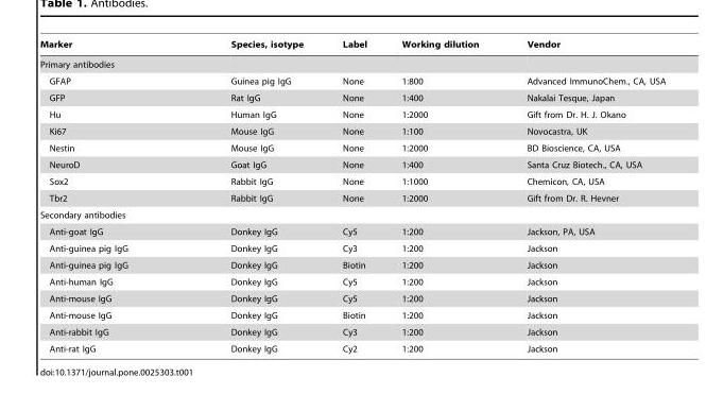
<table><thead><tr><td>Marker</td><td>Species, isotype</td><td>Label</td><td>Working dilution</td><td>Vendor</td></tr></thead><tbody><tr><td colspan="5">Primary antibodies</td></tr><tr><td>GFAP</td><td>Guinea pig IgG</td><td>None</td><td>1:800</td><td>Advanced ImmunoChem., CA, USA</td></tr><tr><td>GFP</td><td>Rat IgG</td><td>None</td><td>1:400</td><td>Nakalai Tesque, Japan</td></tr><tr><td>Hu</td><td>Human IgG</td><td>None</td><td>1:2000</td><td>Gift from Dr. H. J. Okano</td></tr><tr><td>Ki67</td><td>Mouse IgG</td><td>None</td><td>1:100</td><td>Novocastra, UK</td></tr><tr><td>Nestin</td><td>Mouse IgG</td><td>None</td><td>1:2000</td><td>BD Bioscience, CA, USA</td></tr><tr><td>NeuroD</td><td>Goat IgG</td><td>None</td><td>1:400</td><td>Santa Cruz Biotech., CA, USA</td></tr><tr><td>Sox2</td><td>Rabbit IgG</td><td>None</td><td>1:1000</td><td>Chemicon, CA, USA</td></tr><tr><td>Tbr2</td><td>Rabbit IgG</td><td>None</td><td>1:2000</td><td>Gift from Dr. R. Hevner</td></tr><tr><td colspan="5">Secondary antibodies</td></tr><tr><td>Anti-goat IgG</td><td>Donkey IgG</td><td>Cy5</td><td>1:200</td><td>Jackson, PA, USA</td></tr><tr><td>Anti-guinea pig IgG</td><td>Donkey IgG</td><td>Cy3</td><td>1:200</td><td>Jackson</td></tr><tr><td>Anti-guinea pig IgG</td><td>Donkey IgG</td><td>Biotin</td><td>1:200</td><td>Jackson</td></tr><tr><td>Anti-human IgG</td><td>Donkey IgG</td><td>Cy5</td><td>1:200</td><td>Jackson</td></tr><tr><td>Anti-mouse IgG</td><td>Donkey IgG</td><td>Cy5</td><td>1:200</td><td>Jackson</td></tr><tr><td>Anti-mouse IgG</td><td>Donkey IgG</td><td>Biotin</td><td>1:200</td><td>Jackson</td></tr><tr><td>Anti-rabbit IgG</td><td>Donkey IgG</td><td>Cy3</td><td>1:200</td><td>Jackson</td></tr><tr><td>Anti-rat IgG</td><td>Donkey IgG</td><td>Cy2</td><td>1:200</td><td>Jackson</td></tr></tbody></table>